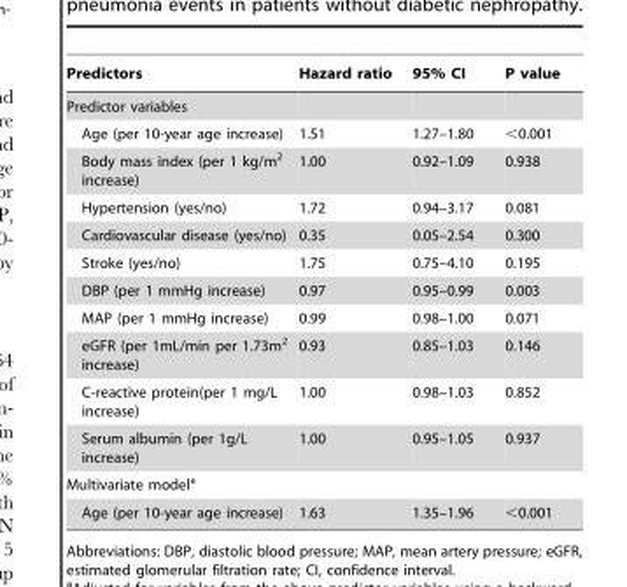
<table><thead><tr><td>Predictors</td><td>Hazard ratio</td><td>95% CI</td><td>P value</td></tr></thead><tbody><tr><td colspan="4">Predictor variables</td></tr><tr><td>Age (per 10-year age increase)</td><td>1.51</td><td>1.27–1.80</td><td>&lt;0.001</td></tr><tr><td>Body mass index (per 1 kg/m<sup>2</sup> increase)</td><td>1.00</td><td>0.92–1.09</td><td>0.938</td></tr><tr><td>Hypertension (yes/no)</td><td>1.72</td><td>0.94–3.17</td><td>0.081</td></tr><tr><td>Cardiovascular disease (yes/no)</td><td>0.35</td><td>0.05–2.54</td><td>0.300</td></tr><tr><td>Stroke (yes/no)</td><td>1.75</td><td>0.75–4.10</td><td>0.195</td></tr><tr><td>DBP (per 1 mmHg increase)</td><td>0.97</td><td>0.95–0.99</td><td>0.003</td></tr><tr><td>MAP (per 1 mmHg increase)</td><td>0.99</td><td>0.98–1.00</td><td>0.071</td></tr><tr><td>eGFR (per 1mL/min per 1.73m<sup>2</sup> increase)</td><td>0.93</td><td>0.85–1.03</td><td>0.146</td></tr><tr><td>C-reactive protein(per 1 mg/L increase)</td><td>1.00</td><td>0.98–1.03</td><td>0.852</td></tr><tr><td>Serum albumin (per 1g/L increase)</td><td>1.00</td><td>0.95–1.05</td><td>0.937</td></tr><tr><td colspan="4">Multivariate model<sup>a</sup></td></tr><tr><td>Age (per 10-year age increase)</td><td>1.63</td><td>1.35–1.96</td><td>&lt;0.001</td></tr></tbody></table>